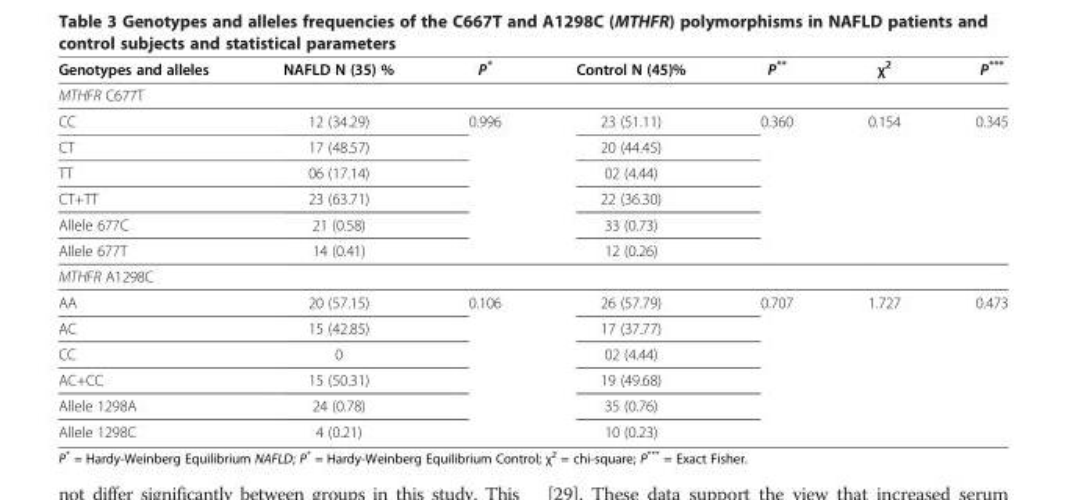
<table><thead><tr><td>Genotypes and alleles</td><td>NAFLD N (35) %</td><td>P*</td><td>Control N (45)%</td><td>P**</td><td>χ<sup>2</sup></td><td>P***</td></tr></thead><tbody><tr><td colspan="7">MTHFR C677T</td></tr><tr><td>CC</td><td>12 (34.29)</td><td rowspan="6">0.996</td><td>23 (51.11)</td><td rowspan="6">0.360</td><td rowspan="6">0.154</td><td rowspan="6">0.345</td></tr><tr><td>CT</td><td>17 (48.57)</td><td>20 (44.45)</td></tr><tr><td>TT</td><td>06 (17.14)</td><td>02 (4.44)</td></tr><tr><td>CT+TT</td><td>23 (63.71)</td><td>22 (36.30)</td></tr><tr><td>Allele 677C</td><td>21 (0.58)</td><td>33 (0.73)</td></tr><tr><td>Allele 677T</td><td>14 (0.41)</td><td>12 (0.26)</td></tr><tr><td colspan="7">MTHFR A1298C</td></tr><tr><td>AA</td><td>20 (57.15)</td><td rowspan="6">0.106</td><td>26 (57.79)</td><td rowspan="6">0.707</td><td rowspan="6">1.727</td><td rowspan="6">0.473</td></tr><tr><td>AC</td><td>15 (42.85)</td><td>17 (37.77)</td></tr><tr><td>CC</td><td>0</td><td>02 (4.44)</td></tr><tr><td>AC+CC</td><td>15 (50.31)</td><td>19 (49.68)</td></tr><tr><td>Allele 1298A</td><td>24 (0.78)</td><td>35 (0.76)</td></tr><tr><td>Allele 1298C</td><td>4 (0.21)</td><td>10 (0.23)</td></tr></tbody></table>